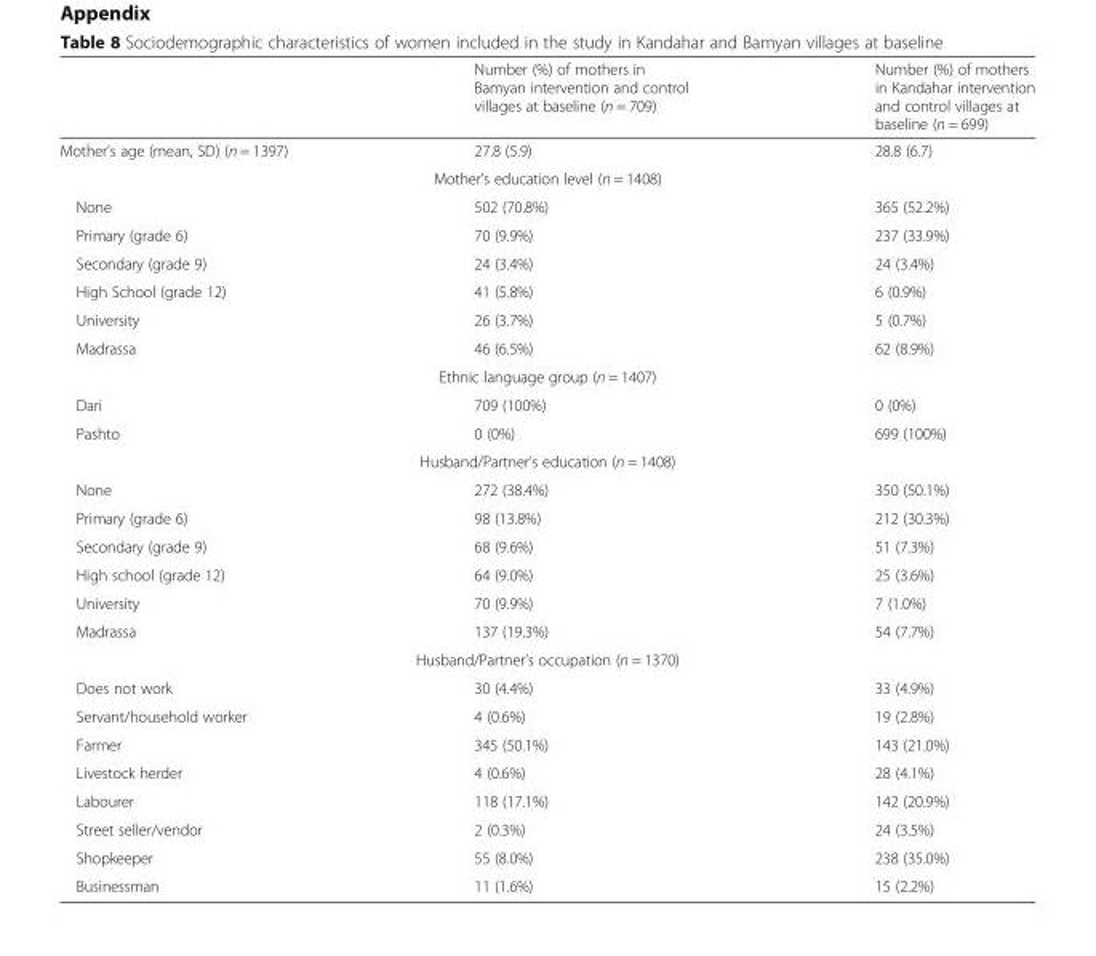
<table><thead><tr><td></td><td>Number (%) of mothers in Bamyan intervention and control villages at baseline (n = 709)</td><td>Number (%) of mothers in Kandahar intervention and control villages at baseline (n = 699)</td></tr></thead><tbody><tr><td>Mother’s age (mean, SD) (n = 1397)</td><td>27.8 (5.9)</td><td>28.8 (6.7)</td></tr><tr><td colspan="3">Mother’s education level (n = 1408)</td></tr><tr><td>None</td><td>502 (70.8%)</td><td>365 (52.2%)</td></tr><tr><td>Primary (grade 6)</td><td>70 (9.9%)</td><td>237 (33.9%)</td></tr><tr><td>Secondary (grade 9)</td><td>24 (3.4%)</td><td>24 (3.4%)</td></tr><tr><td>High School (grade 12)</td><td>41 (5.8%)</td><td>6 (0.9%)</td></tr><tr><td>University</td><td>26 (3.7%)</td><td>5 (0.7%)</td></tr><tr><td>Madrassa</td><td>46 (6.5%)</td><td>62 (8.9%)</td></tr><tr><td colspan="3">Ethnic language group (n = 1407)</td></tr><tr><td>Dari</td><td>709 (100%)</td><td>0 (0%)</td></tr><tr><td>Pashto</td><td>0 (0%)</td><td>699 (100%)</td></tr><tr><td colspan="3">Husband/Partner’s education (n = 1408)</td></tr><tr><td>None</td><td>272 (38.4%)</td><td>350 (50.1%)</td></tr><tr><td>Primary (grade 6)</td><td>98 (13.8%)</td><td>212 (30.3%)</td></tr><tr><td>Secondary (grade 9)</td><td>68 (9.6%)</td><td>51 (7.3%)</td></tr><tr><td>High school (grade 12)</td><td>64 (9.0%)</td><td>25 (3.6%)</td></tr><tr><td>University</td><td>70 (9.9%)</td><td>7 (1.0%)</td></tr><tr><td>Madrassa</td><td>137 (19.3%)</td><td>54 (7.7%)</td></tr><tr><td colspan="3">Husband/Partner’s occupation (n = 1370)</td></tr><tr><td>Does not work</td><td>30 (4.4%)</td><td>33 (4.9%)</td></tr><tr><td>Servant/household worker</td><td>4 (0.6%)</td><td>19 (2.8%)</td></tr><tr><td>Farmer</td><td>345 (50.1%)</td><td>143 (21.0%)</td></tr><tr><td>Livestock herder</td><td>4 (0.6%)</td><td>28 (4.1%)</td></tr><tr><td>Labourer</td><td>118 (17.1%)</td><td>142 (20.9%)</td></tr><tr><td>Street seller/vendor</td><td>2 (0.3%)</td><td>24 (3.5%)</td></tr><tr><td>Shopkeeper</td><td>55 (8.0%)</td><td>238 (35.0%)</td></tr><tr><td>Businessman</td><td>11 (1.6%)</td><td>15 (2.2%)</td></tr></tbody></table>